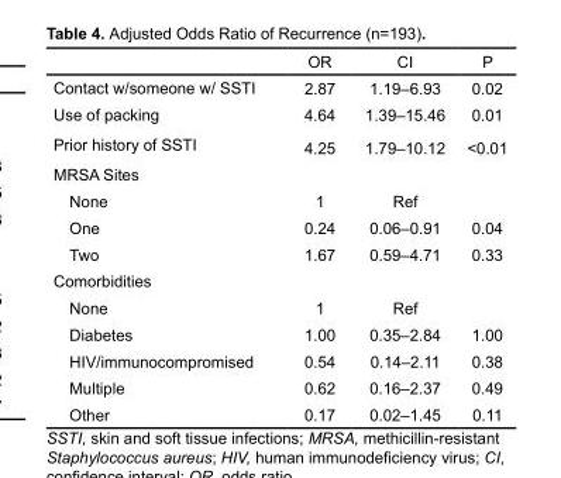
<table><thead><tr><td></td><td>OR</td><td>CI</td><td>P</td></tr></thead><tbody><tr><td>Contact w/someone w/ SSTI</td><td>2.87</td><td>1.19–6.93</td><td>0.02</td></tr><tr><td>Use of packing</td><td>4.64</td><td>1.39–15.46</td><td>0.01</td></tr><tr><td>Prior history of SSTI</td><td>4.25</td><td>1.79–10.12</td><td>&lt;0.01</td></tr><tr><td colspan="4">MRSA Sites</td></tr><tr><td>None</td><td>1</td><td>Ref</td><td></td></tr><tr><td>One</td><td>0.24</td><td>0.06–0.91</td><td>0.04</td></tr><tr><td>Two</td><td>1.67</td><td>0.59–4.71</td><td>0.33</td></tr><tr><td colspan="4">Comorbidities</td></tr><tr><td>None</td><td>1</td><td>Ref</td><td></td></tr><tr><td>Diabetes</td><td>1.00</td><td>0.35–2.84</td><td>1.00</td></tr><tr><td>HIV/immunocompromised</td><td>0.54</td><td>0.14–2.11</td><td>0.38</td></tr><tr><td>Multiple</td><td>0.62</td><td>0.16–2.37</td><td>0.49</td></tr><tr><td>Other</td><td>0.17</td><td>0.02–1.45</td><td>0.11</td></tr></tbody></table>